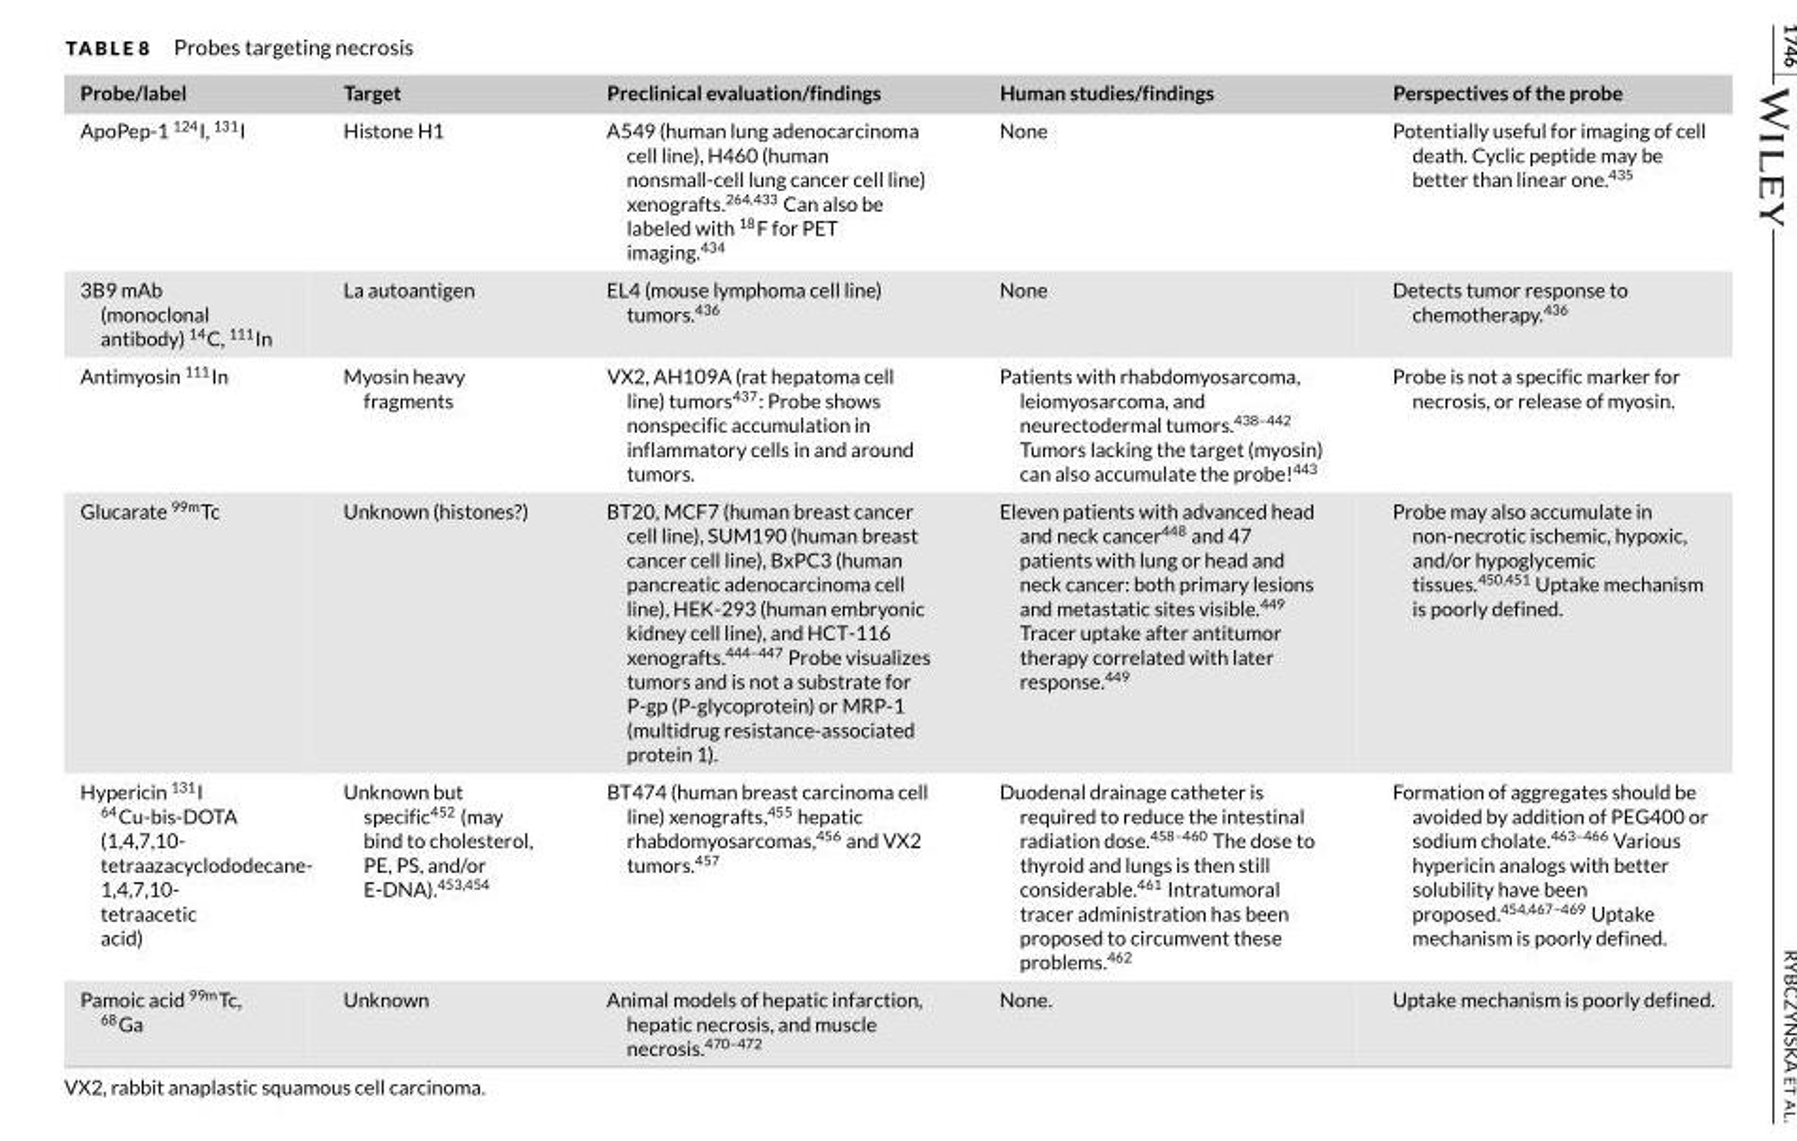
<table><thead><tr><td>Probe/label</td><td>Target</td><td>Preclinical evaluation/findings</td><td>Human studies/findings</td><td>Perspectives of the probe</td></tr></thead><tbody><tr><td>ApoPep-1 <sup>124</sup>I, <sup>131</sup>I</td><td>Histone H1</td><td>A549 (human lung adenocarcinoma cell line), H460 (human nonsmall-cell lung cancer cell line) xenografts.<sup>264</sup>,<sup>433</sup> Can also be labeled with <sup>18</sup>F for PET imaging.<sup>434</sup></td><td>None</td><td>Potentially useful for imaging of cell death. Cyclic peptide may be better than linear one.<sup>435</sup></td></tr><tr><td>3B9 mAb (monoclonal antibody) <sup>14</sup>C, <sup>111</sup>In</td><td>La autoantigen</td><td>EL4 (mouse lymphoma cell line) tumors.<sup>436</sup></td><td>None</td><td>Detects tumor response to chemotherapy.<sup>436</sup></td></tr><tr><td>Antimyosin <sup>111</sup>In</td><td>Myosin heavy fragments</td><td>VX2, AH109A (rat hepatoma cell line) tumors<sup>437</sup>: Probe shows nonspecific accumulation in inflammatory cells in and around tumors.</td><td>Patients with rhabdomyosarcoma, leiomyosarcoma, and neurectodermal tumors.438–442 Tumors lacking the target (myosin) can also accumulate the probe!443</td><td>Probe is not a specific marker for necrosis, or release of myosin.</td></tr><tr><td>Glucarate <sup>99m</sup>Tc</td><td>Unknown (histones?)</td><td>BT20, MCF7 (human breast cancer cell line), SUM190 (human breast cancer cell line), BxPC3 (human pancreatic adenocarcinoma cell line), HEK-293 (human embryonic kidney cell line), and HCT-116 xenografts.444–447 Probe visualizes tumors and is not a substrate for P-gp (P-glycoprotein) or MRP-1 (multidrug resistance-associated protein 1).</td><td>Eleven patients with advanced head and neck cancer<sup>448</sup> and 47 patients with lung or head and neck cancer: both primary lesions and metastatic sites visible.<sup>449</sup> Tracer uptake after antitumor therapy correlated with later response.<sup>449</sup></td><td>Probe may also accumulate in non-necrotic ischemic, hypoxic, and/or hypoglycemic tissues.<sup>450</sup>,<sup>451</sup> Uptake mechanism is poorly defined.</td></tr><tr><td>Hypericin <sup>131</sup>I <sup>64</sup>Cu-bis-DOTA (1,4,7,10- tetraazacyclododecane- 1,4,7,10- tetraacetic acid)</td><td>Unknown but specific<sup>452</sup> (may bind to cholesterol, PE, PS, and/or E-DNA).<sup>453</sup>,<sup>454</sup></td><td>BT474 (human breast carcinoma cell line) xenografts,<sup>455</sup> hepatic rhabdomyosarcomas,<sup>456</sup> and VX2 tumors.<sup>457</sup></td><td>Duodenal drainage catheter is required to reduce the intestinal radiation dose.458–460 The dose to thyroid and lungs is then still considerable.461 Intratumoral tracer administration has been proposed to circumvent these problems.462</td><td>Formation of aggregates should be avoided by addition of PEG400 or sodium cholate.463–466 Various hypericin analogs with better solubility have been proposed.454,467–469 Uptake mechanism is poorly defined.</td></tr><tr><td>Pamoic acid <sup>99m</sup>Tc, <sup>68</sup>Ga</td><td>Unknown</td><td>Animal models of hepatic infarction, hepatic necrosis, and muscle necrosis.470–472</td><td>None.</td><td>Uptake mechanism is poorly defined.</td></tr></tbody></table>